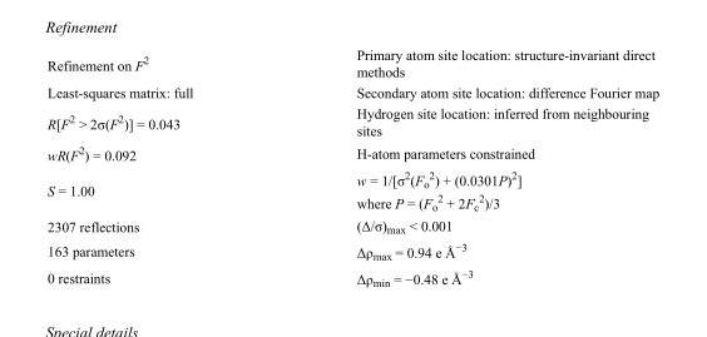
<table><tbody><tr><td>Refinement on F<sup>2</sup></td><td>Primary atom site location: structure-invariant direct methods</td></tr><tr><td>Least-squares matrix: full</td><td>Secondary atom site location: difference Fourier map</td></tr><tr><td>R[F<sup>2</sup> &gt; 2σ(F<sup>2</sup>)] = 0.043</td><td>Hydrogen site location: inferred from neighbouring sites</td></tr><tr><td>wR(F<sup>2</sup>) = 0.092</td><td>H-atom parameters constrained</td></tr><tr><td>S = 1.00</td><td>w = 1/[σ<sup>2</sup>(F<sub>o</sub> <sup>2</sup>) + (0.0301P)<sup>2</sup>] where P = (F<sub>o</sub> <sup>2</sup> + 2F<sub>c</sub> <sup>2</sup>)/3</td></tr><tr><td>2307 reflections</td><td>(Δ/σ)<sub>max</sub> &lt; 0.001</td></tr><tr><td>163 parameters</td><td>Δρ<sub>max</sub> = 0.94 e Å<sup>−3</sup></td></tr><tr><td>0 restraints</td><td>Δρ<sub>min</sub> = −0.48 e Å<sup>−3</sup></td></tr></tbody></table>